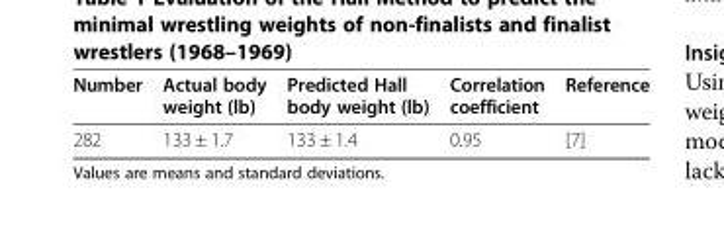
<table><thead><tr><td>Number</td><td>Actual body weight (lb)</td><td>Predicted Hall body weight (lb)</td><td>Correlation coefficient</td><td>Reference</td></tr></thead><tbody><tr><td>282</td><td>133 ± 1.7</td><td>133 ± 1.4</td><td>0.95</td><td>[7]</td></tr></tbody></table>